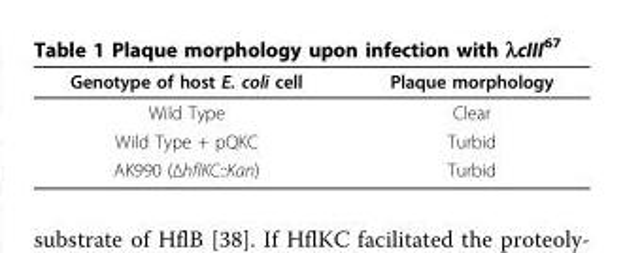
<table><thead><tr><td>Genotype of host E. coli cell</td><td>Plaque morphology</td></tr></thead><tbody><tr><td>Wild Type</td><td>Clear</td></tr><tr><td>Wild Type + pQKC</td><td>Turbid</td></tr><tr><td>AK990 (ΔhflKC::Kan)</td><td>Turbid</td></tr></tbody></table>